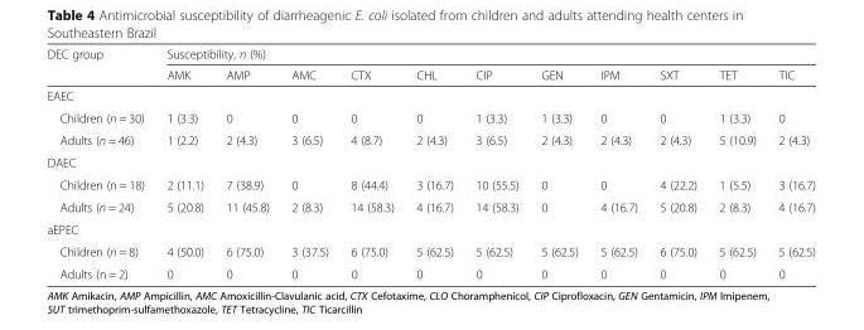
<table><thead><tr><td rowspan="2">DEC group</td><td colspan="11">Susceptibility, n (%)</td></tr><tr><td>AMK</td><td>AMP</td><td>AMC</td><td>CTX</td><td>CHL</td><td>CIP</td><td>GEN</td><td>IPM</td><td>SXT</td><td>TET</td><td>TIC</td></tr></thead><tbody><tr><td colspan="12">EAEC</td></tr><tr><td>Children (n = 30)</td><td>1 (3.3)</td><td>0</td><td>0</td><td>0</td><td>0</td><td>1 (3.3)</td><td>1 (3.3)</td><td>0</td><td>0</td><td>1 (3.3)</td><td>0</td></tr><tr><td>Adults (n = 46)</td><td>1 (2.2)</td><td>2 (4.3)</td><td>3 (6.5)</td><td>4 (8.7)</td><td>2 (4.3)</td><td>3 (6.5)</td><td>2 (4.3)</td><td>2 (4.3)</td><td>2 (4.3)</td><td>5 (10.9)</td><td>2 (4.3)</td></tr><tr><td colspan="12">DAEC</td></tr><tr><td>Children (n = 18)</td><td>2 (11.1)</td><td>7 (38.9)</td><td>0</td><td>8 (44.4)</td><td>3 (16.7)</td><td>10 (55.5)</td><td>0</td><td>0</td><td>4 (22.2)</td><td>1 (5.5)</td><td>3 (16.7)</td></tr><tr><td>Adults (n = 24)</td><td>5 (20.8)</td><td>11 (45.8)</td><td>2 (8.3)</td><td>14 (58.3)</td><td>4 (16.7)</td><td>14 (58.3)</td><td>0</td><td>4 (16.7)</td><td>5 (20.8)</td><td>2 (8.3)</td><td>4 (16.7)</td></tr><tr><td colspan="12">aEPEC</td></tr><tr><td>Children (n = 8)</td><td>4 (50.0)</td><td>6 (75.0)</td><td>3 (37.5)</td><td>6 (75.0)</td><td>5 (62.5)</td><td>5 (62.5)</td><td>5 (62.5)</td><td>5 (62.5)</td><td>6 (75.0)</td><td>5 (62.5)</td><td>5 (62.5)</td></tr><tr><td>Adults (n = 2)</td><td>0</td><td>0</td><td>0</td><td>0</td><td>0</td><td>0</td><td>0</td><td>0</td><td>0</td><td>0</td><td>0</td></tr></tbody></table>